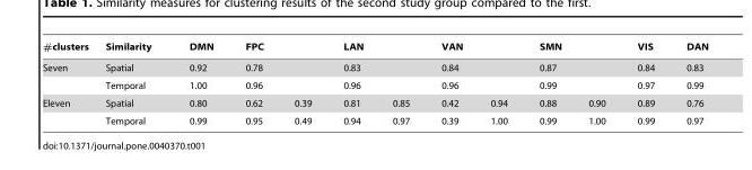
<table><thead><tr><td rowspan="4">#clusters Seven Eleven</td><td rowspan="4">Similarity Spatial Temporal Spatial</td><td rowspan="4">DMN 0.92 1.00 0.80</td><td rowspan="3" colspan="2">FPC 0.78 0.96</td><td rowspan="3" colspan="2">LAN 0.83 0.96</td><td rowspan="3" colspan="2">VAN 0.84 0.96</td><td rowspan="3" colspan="2">SMN 0.87 0.99</td><td rowspan="4">VIS 0.84 0.97 0.89</td><td rowspan="4">DAN 0.83 0.99 0.76</td></tr><tr></tr><tr></tr><tr><td>0.62</td><td>0.39</td><td>0.81</td><td>0.85</td><td>0.42</td><td>0.94</td><td>0.88</td><td>0.90</td></tr></thead><tbody><tr><td></td><td>Temporal</td><td>0.99</td><td>0.95</td><td>0.49</td><td>0.94</td><td>0.97</td><td>0.39</td><td>1.00</td><td>0.99</td><td>1.00</td><td>0.99</td><td>0.97</td></tr></tbody></table>